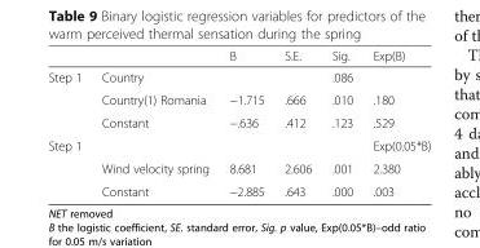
<table><thead><tr><td></td><td></td><td>B</td><td>S.E.</td><td>Sig.</td><td>Exp(B)</td></tr></thead><tbody><tr><td rowspan="3">Step 1</td><td>Country</td><td></td><td></td><td>.086</td><td></td></tr><tr><td>Country(1) Romania</td><td>−1.715</td><td>.666</td><td>.010</td><td>.180</td></tr><tr><td>Constant</td><td>−.636</td><td>.412</td><td>.123</td><td>.529</td></tr><tr><td rowspan="3">Step 1</td><td></td><td></td><td></td><td></td><td>Exp(0.05*B)</td></tr><tr><td>Wind velocity spring</td><td>8.681</td><td>2.606</td><td>.001</td><td>2.380</td></tr><tr><td>Constant</td><td>−2.885</td><td>.643</td><td>.000</td><td>.003</td></tr></tbody></table>